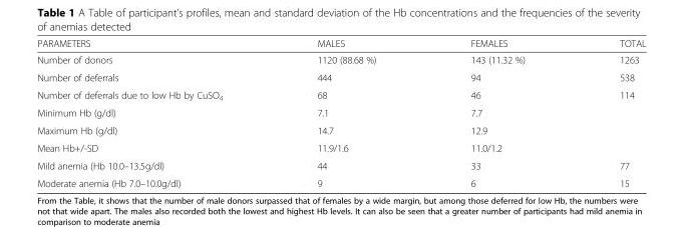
<table><thead><tr><td>PARAMETERS</td><td>MALES</td><td>FEMALES</td><td>TOTAL</td></tr></thead><tbody><tr><td>Number of donors</td><td>1120 (88.68 %)</td><td>143 (11.32 %)</td><td>1263</td></tr><tr><td>Number of deferrals</td><td>444</td><td>94</td><td>538</td></tr><tr><td>Number of deferrals due to low Hb by CuSO<sub>4</sub></td><td>68</td><td>46</td><td>114</td></tr><tr><td>Minimum Hb (g/dl)</td><td>7.1</td><td>7.7</td><td></td></tr><tr><td>Maximum Hb (g/dl)</td><td>14.7</td><td>12.9</td><td></td></tr><tr><td>Mean Hb+/-SD</td><td>11.9/1.6</td><td>11.0/1.2</td><td></td></tr><tr><td>Mild anemia (Hb 10.0–13.5g/dl)</td><td>44</td><td>33</td><td>77</td></tr><tr><td>Moderate anemia (Hb 7.0–10.0g/dl)</td><td>9</td><td>6</td><td>15</td></tr></tbody></table>